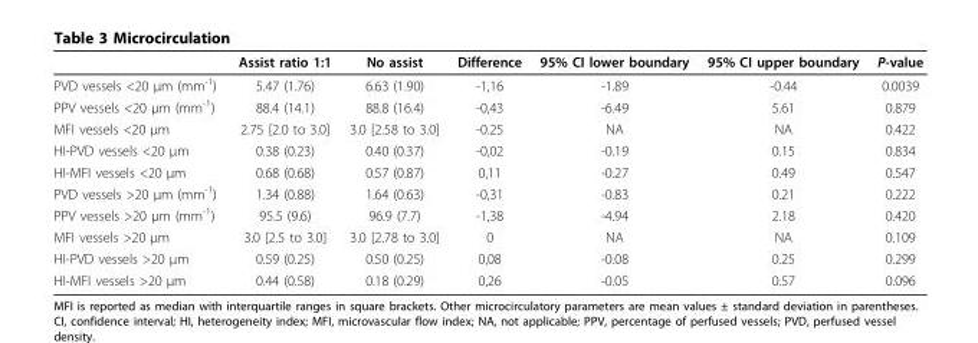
<table><thead><tr><td></td><td>Assist ratio 1:1</td><td>No assist</td><td>Difference</td><td>95% CI lower boundary</td><td>95% CI upper boundary</td><td>P-value</td></tr></thead><tbody><tr><td>PVD vessels &lt;20 μm (mm<sup>-1</sup>)</td><td>5.47 (1.76)</td><td>6.63 (1.90)</td><td>-1,16</td><td>-1.89</td><td>-0.44</td><td>0.0039</td></tr><tr><td>PPV vessels &lt;20 μm (mm<sup>-1</sup>)</td><td>88.4 (14.1)</td><td>88.8 (16.4)</td><td>-0,43</td><td>-6.49</td><td>5.61</td><td>0.879</td></tr><tr><td>MFI vessels &lt;20 μm</td><td>2.75 [2.0 to 3.0]</td><td>3.0 [2.58 to 3.0]</td><td>-0.25</td><td>NA</td><td>NA</td><td>0.422</td></tr><tr><td>HI-PVD vessels &lt;20 μm</td><td>0.38 (0.23)</td><td>0.40 (0.37)</td><td>-0,02</td><td>-0.19</td><td>0.15</td><td>0.834</td></tr><tr><td>HI-MFI vessels &lt;20 μm</td><td>0.68 (0.68)</td><td>0.57 (0.87)</td><td>0,11</td><td>-0.27</td><td>0.49</td><td>0.547</td></tr><tr><td>PVD vessels &gt;20 μm (mm<sup>-1</sup>)</td><td>1.34 (0.88)</td><td>1.64 (0.63)</td><td>-0,31</td><td>-0.83</td><td>0.21</td><td>0.222</td></tr><tr><td>PPV vessels &gt;20 μm (mm<sup>-1</sup>)</td><td>95.5 (9.6)</td><td>96.9 (7.7)</td><td>-1,38</td><td>-4.94</td><td>2.18</td><td>0.420</td></tr><tr><td>MFI vessels &gt;20 μm</td><td>3.0 [2.5 to 3.0]</td><td>3.0 [2.78 to 3.0]</td><td>0</td><td>NA</td><td>NA</td><td>0.109</td></tr><tr><td>HI-PVD vessels &gt;20 μm</td><td>0.59 (0.25)</td><td>0.50 (0.25)</td><td>0,08</td><td>-0.08</td><td>0.25</td><td>0.299</td></tr><tr><td>HI-MFI vessels &gt;20 μm</td><td>0.44 (0.58)</td><td>0.18 (0.29)</td><td>0,26</td><td>-0.05</td><td>0.57</td><td>0.096</td></tr></tbody></table>